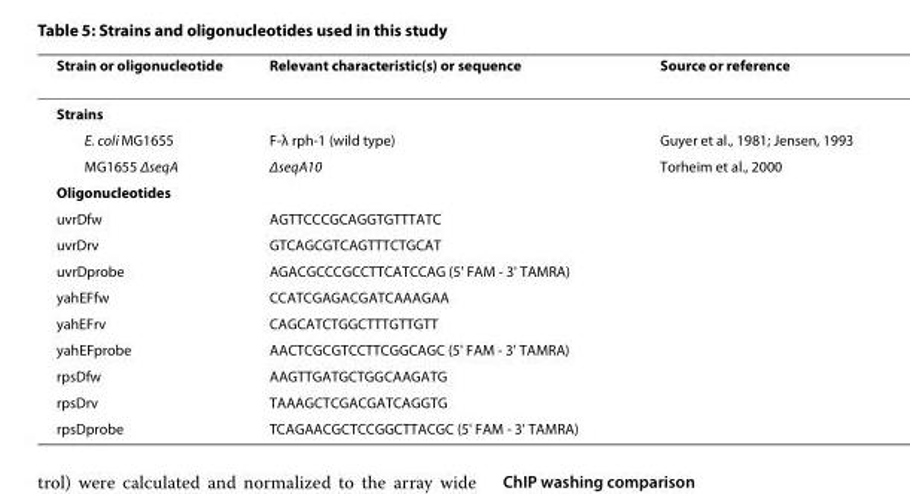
<table><thead><tr><td>Strain or oligonucleotide</td><td>Relevant characteristic(s) or sequence</td><td>Source or reference</td></tr></thead><tbody><tr><td colspan="3">Strains</td></tr><tr><td>E. coli MG1655</td><td>F-λ rph-1 (wild type)</td><td>Guyer et al., 1981; Jensen, 1993</td></tr><tr><td>MG1655 ΔseqA</td><td>ΔseqA10</td><td>Torheim et al., 2000</td></tr><tr><td colspan="3">Oligonucleotides</td></tr><tr><td>uvrDfw</td><td>AGTTCCCGCAGGTGTTTATC</td><td></td></tr><tr><td>uvrDrv</td><td>GTCAGCGTCAGTTTCTGCAT</td><td></td></tr><tr><td>uvrDprobe</td><td>AGACGCCCGCCTTCATCCAG (5&#x27; FAM - 3&#x27; TAMRA)</td><td></td></tr><tr><td>yahEFfw</td><td>CCATCGAGACGATCAAAGAA</td><td></td></tr><tr><td>yahEFrv</td><td>CAGCATCTGGCTTTGTTGTT</td><td></td></tr><tr><td>yahEFprobe</td><td>AACTCGCGTCCTTCGGCAGC (5&#x27; FAM - 3&#x27; TAMRA)</td><td></td></tr><tr><td>rpsDfw</td><td>AAGTTGATGCTGGCAAGATG</td><td></td></tr><tr><td>rpsDrv</td><td>TAAAGCTCGACGATCAGGTG</td><td></td></tr><tr><td>rpsDprobe</td><td>TCAGAACGCTCCGGCTTACGC (5&#x27; FAM - 3&#x27; TAMRA)</td><td></td></tr></tbody></table>